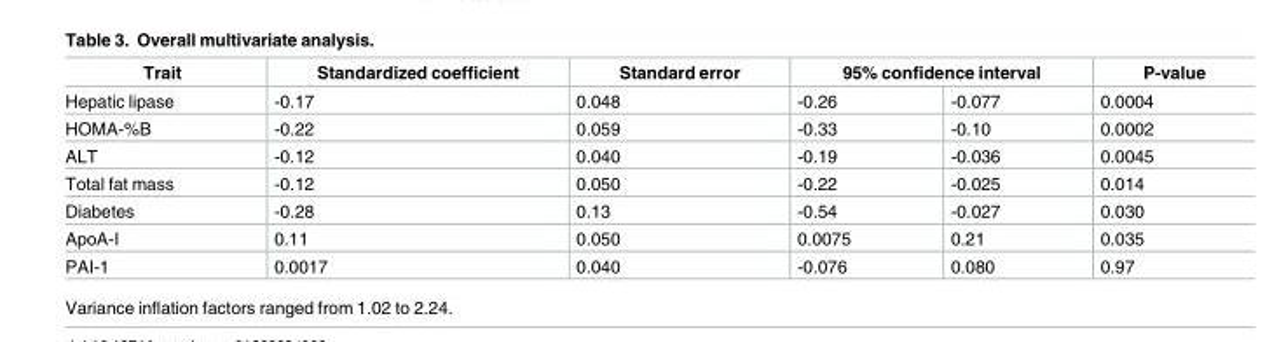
<table><thead><tr><td rowspan="2">Trait Hepatic lipase</td><td rowspan="2">Standardized coefficient -0.17</td><td rowspan="2">Standard error 0.048</td><td colspan="2">95% confidence interval</td><td rowspan="2">P-value 0.0004</td></tr><tr><td>-0.26</td><td>-0.077</td></tr></thead><tbody><tr><td>HOMA-%B</td><td>-0.22</td><td>0.059</td><td>-0.33</td><td>-0.10</td><td>0.0002</td></tr><tr><td>ALT</td><td>-0.12</td><td>0.040</td><td>-0.19</td><td>-0.036</td><td>0.0045</td></tr><tr><td>Total fat mass</td><td>-0.12</td><td>0.050</td><td>-0.22</td><td>-0.025</td><td>0.014</td></tr><tr><td>Diabetes</td><td>-0.28</td><td>0.13</td><td>-0.54</td><td>-0.027</td><td>0.030</td></tr><tr><td>ApoA-I</td><td>0.11</td><td>0.050</td><td>0.0075</td><td>0.21</td><td>0.035</td></tr><tr><td>PAI-1</td><td>0.0017</td><td>0.040</td><td>-0.076</td><td>0.080</td><td>0.97</td></tr></tbody></table>